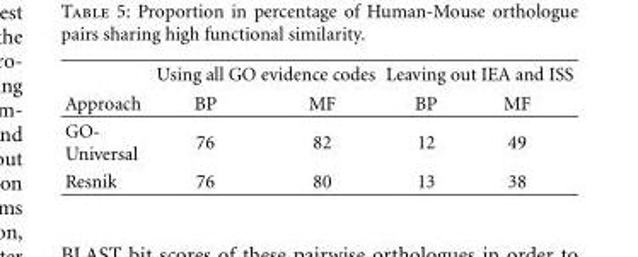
<table><thead><tr><td rowspan="2">Approach</td><td colspan="2">Using all GO evidence codes</td><td colspan="2">Leaving out IEA and ISS</td></tr><tr><td>BP</td><td>MF</td><td>BP</td><td>MF</td></tr></thead><tbody><tr><td>GO- Universal</td><td>76</td><td>82</td><td>12</td><td>49</td></tr><tr><td>Resnik</td><td>76</td><td>80</td><td>13</td><td>38</td></tr></tbody></table>